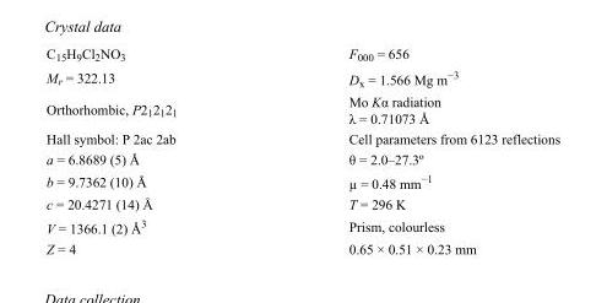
<table><tbody><tr><td>C<sub>15</sub>H<sub>9</sub>Cl<sub>2</sub>NO<sub>3</sub></td><td>F<sub>000</sub> = 656</td></tr><tr><td>M<sub>r</sub> = 322.13</td><td>D<sub>x</sub> = 1.566 Mg m<sup>−3</sup></td></tr><tr><td>Orthorhombic, P2<sub>1</sub>2<sub>1</sub>2<sub>1</sub></td><td>Mo Kα radiation λ = 0.71073 Å</td></tr><tr><td>Hall symbol: P 2ac 2ab</td><td>Cell parameters from 6123 reflections</td></tr><tr><td>a = 6.8689 (5) Å</td><td>θ = 2.0–27.3º</td></tr><tr><td>b = 9.7362 (10) Å</td><td>µ = 0.48 mm<sup>−1</sup></td></tr><tr><td>c = 20.4271 (14) Å</td><td>T = 296 K</td></tr><tr><td>V = 1366.1 (2) Å<sup>3</sup></td><td>Prism, colourless</td></tr><tr><td>Z = 4</td><td>0.65 × 0.51 × 0.23 mm</td></tr></tbody></table>